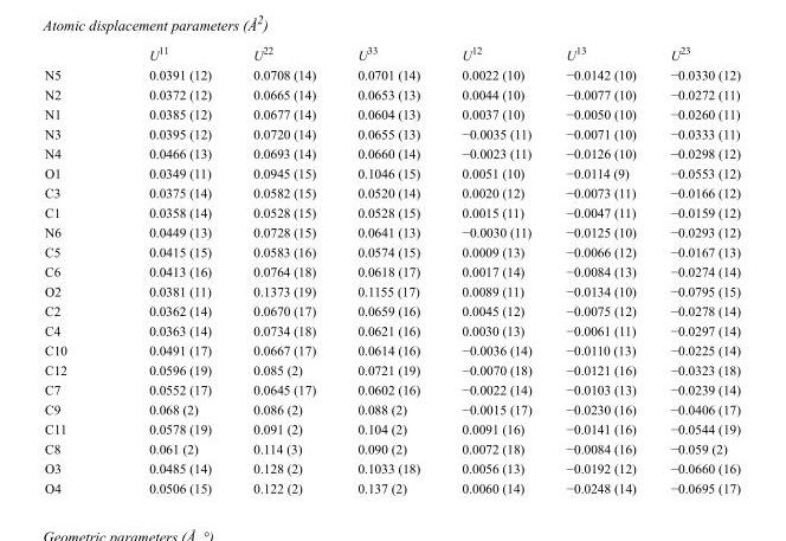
<table><thead><tr><td></td><td>U<sup>11</sup></td><td>U<sup>22</sup></td><td>U<sup>33</sup></td><td>U<sup>12</sup></td><td>U<sup>13</sup></td><td>U<sup>23</sup></td></tr></thead><tbody><tr><td>N5</td><td>0.0391 (12)</td><td>0.0708 (14)</td><td>0.0701 (14)</td><td>0.0022 (10)</td><td>−0.0142 (10)</td><td>−0.0330 (12)</td></tr><tr><td>N2</td><td>0.0372 (12)</td><td>0.0665 (14)</td><td>0.0653 (13)</td><td>0.0044 (10)</td><td>−0.0077 (10)</td><td>−0.0272 (11)</td></tr><tr><td>N1</td><td>0.0385 (12)</td><td>0.0677 (14)</td><td>0.0604 (13)</td><td>0.0037 (10)</td><td>−0.0050 (10)</td><td>−0.0260 (11)</td></tr><tr><td>N3</td><td>0.0395 (12)</td><td>0.0720 (14)</td><td>0.0655 (13)</td><td>−0.0035 (11)</td><td>−0.0071 (10)</td><td>−0.0333 (11)</td></tr><tr><td>N4</td><td>0.0466 (13)</td><td>0.0693 (14)</td><td>0.0660 (14)</td><td>−0.0023 (11)</td><td>−0.0126 (10)</td><td>−0.0298 (12)</td></tr><tr><td>O1</td><td>0.0349 (11)</td><td>0.0945 (15)</td><td>0.1046 (15)</td><td>0.0051 (10)</td><td>−0.0114 (9)</td><td>−0.0553 (12)</td></tr><tr><td>C3</td><td>0.0375 (14)</td><td>0.0582 (15)</td><td>0.0520 (14)</td><td>0.0020 (12)</td><td>−0.0073 (11)</td><td>−0.0166 (12)</td></tr><tr><td>C1</td><td>0.0358 (14)</td><td>0.0528 (15)</td><td>0.0528 (15)</td><td>0.0015 (11)</td><td>−0.0047 (11)</td><td>−0.0159 (12)</td></tr><tr><td>N6</td><td>0.0449 (13)</td><td>0.0728 (15)</td><td>0.0641 (13)</td><td>−0.0030 (11)</td><td>−0.0125 (10)</td><td>−0.0293 (12)</td></tr><tr><td>C5</td><td>0.0415 (15)</td><td>0.0583 (16)</td><td>0.0574 (15)</td><td>0.0009 (13)</td><td>−0.0066 (12)</td><td>−0.0167 (13)</td></tr><tr><td>C6</td><td>0.0413 (16)</td><td>0.0764 (18)</td><td>0.0618 (17)</td><td>0.0017 (14)</td><td>−0.0084 (13)</td><td>−0.0274 (14)</td></tr><tr><td>O2</td><td>0.0381 (11)</td><td>0.1373 (19)</td><td>0.1155 (17)</td><td>0.0089 (11)</td><td>−0.0134 (10)</td><td>−0.0795 (15)</td></tr><tr><td>C2</td><td>0.0362 (14)</td><td>0.0670 (17)</td><td>0.0659 (16)</td><td>0.0045 (12)</td><td>−0.0075 (12)</td><td>−0.0278 (14)</td></tr><tr><td>C4</td><td>0.0363 (14)</td><td>0.0734 (18)</td><td>0.0621 (16)</td><td>0.0030 (13)</td><td>−0.0061 (11)</td><td>−0.0297 (14)</td></tr><tr><td>C10</td><td>0.0491 (17)</td><td>0.0667 (17)</td><td>0.0614 (16)</td><td>−0.0036 (14)</td><td>−0.0110 (13)</td><td>−0.0225 (14)</td></tr><tr><td>C12</td><td>0.0596 (19)</td><td>0.085 (2)</td><td>0.0721 (19)</td><td>−0.0070 (18)</td><td>−0.0121 (16)</td><td>−0.0323 (18)</td></tr><tr><td>C7</td><td>0.0552 (17)</td><td>0.0645 (17)</td><td>0.0602 (16)</td><td>−0.0022 (14)</td><td>−0.0103 (13)</td><td>−0.0239 (14)</td></tr><tr><td>C9</td><td>0.068 (2)</td><td>0.086 (2)</td><td>0.088 (2)</td><td>−0.0015 (17)</td><td>−0.0230 (16)</td><td>−0.0406 (17)</td></tr><tr><td>C11</td><td>0.0578 (19)</td><td>0.091 (2)</td><td>0.104 (2)</td><td>0.0091 (16)</td><td>−0.0141 (16)</td><td>−0.0544 (19)</td></tr><tr><td>C8</td><td>0.061 (2)</td><td>0.114 (3)</td><td>0.090 (2)</td><td>0.0072 (18)</td><td>−0.0084 (16)</td><td>−0.059 (2)</td></tr><tr><td>O3</td><td>0.0485 (14)</td><td>0.128 (2)</td><td>0.1033 (18)</td><td>0.0056 (13)</td><td>−0.0192 (12)</td><td>−0.0660 (16)</td></tr><tr><td>O4</td><td>0.0506 (15)</td><td>0.122 (2)</td><td>0.137 (2)</td><td>0.0060 (14)</td><td>−0.0248 (14)</td><td>−0.0695 (17)</td></tr></tbody></table>